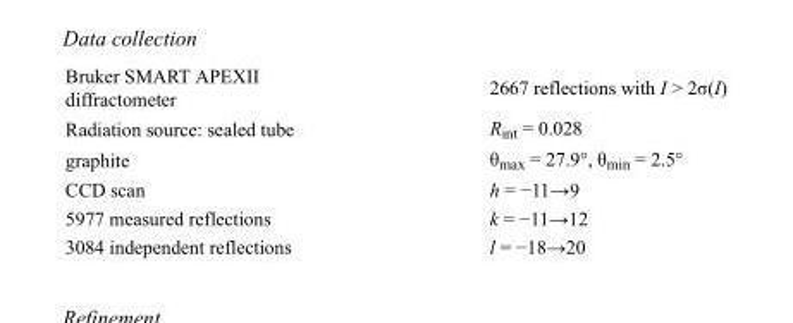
<table><tbody><tr><td>Bruker SMART APEXII diffractometer</td><td>2667 reflections with I &gt; 2σ(I)</td></tr><tr><td>Radiation source: sealed tube</td><td>R<sub>int</sub> = 0.028</td></tr><tr><td>graphite</td><td>θ<sub>max</sub> = 27.9°, θ<sub>min</sub> = 2.5°</td></tr><tr><td>CCD scan</td><td>h = −11→9</td></tr><tr><td>5977 measured reflections</td><td>k = −11→12</td></tr><tr><td>3084 independent reflections</td><td>l = −18→20</td></tr></tbody></table>